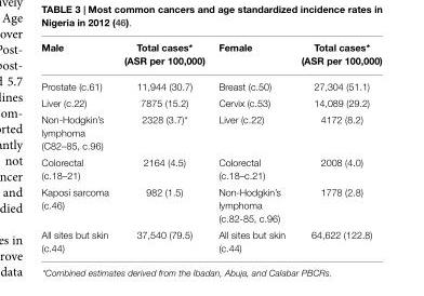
<table><thead><tr><td>Male</td><td>Total cases* (ASR per 100,000)</td><td>Female</td><td>Total cases* (ASR per 100,000)</td></tr></thead><tbody><tr><td>Prostate (c.61)</td><td>11,944 (30.7)</td><td>Breast (c.50)</td><td>27,304 (51.1)</td></tr><tr><td>Liver (c.22)</td><td>7875 (15.2)</td><td>Cervix (c.53)</td><td>14,089 (29.2)</td></tr><tr><td>Non-Hodgkin’s lymphoma (C82–85, c.96)</td><td>2328 (3.7)*</td><td>Liver (c.22)</td><td>4172 (8.2)</td></tr><tr><td>Colorectal (c.18–21)</td><td>2164 (4.5)</td><td>Colorectal (c.18–c.21)</td><td>2008 (4.0)</td></tr><tr><td>Kaposi sarcoma (c.46)</td><td>982 (1.5)</td><td>Non-Hodgkin’s lymphoma (c.82-85, c.96)</td><td>1778 (2.8)</td></tr><tr><td>All sites but skin (c.44)</td><td>37,540 (79.5)</td><td>All sites but skin (c.44)</td><td>64,622 (122.8)</td></tr></tbody></table>